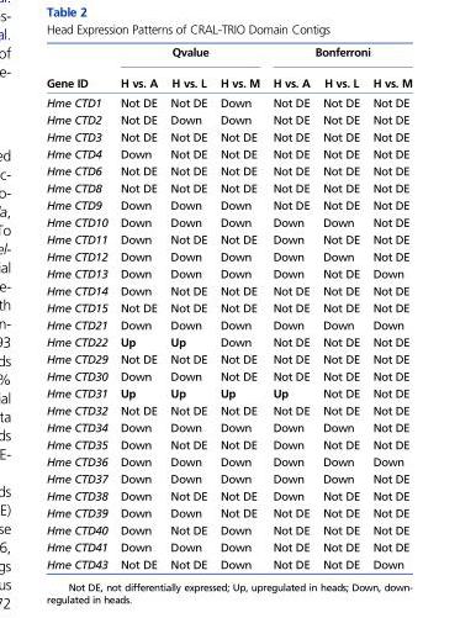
<table><thead><tr><td rowspan="2">Gene ID</td><td colspan="3">Qvalue</td><td colspan="3">Bonferroni</td></tr><tr><td>H vs. A</td><td>H vs. L</td><td>H vs. M</td><td>H vs. A</td><td>H vs. L</td><td>H vs. M</td></tr></thead><tbody><tr><td>Hme CTD1</td><td>Not DE</td><td>Not DE</td><td>Down</td><td>Not DE</td><td>Not DE</td><td>Not DE</td></tr><tr><td>Hme CTD2</td><td>Not DE</td><td>Down</td><td>Down</td><td>Not DE</td><td>Not DE</td><td>Not DE</td></tr><tr><td>Hme CTD3</td><td>Not DE</td><td>Not DE</td><td>Not DE</td><td>Not DE</td><td>Not DE</td><td>Not DE</td></tr><tr><td>Hme CTD4</td><td>Down</td><td>Not DE</td><td>Not DE</td><td>Not DE</td><td>Not DE</td><td>Not DE</td></tr><tr><td>Hme CTD6</td><td>Not DE</td><td>Not DE</td><td>Not DE</td><td>Not DE</td><td>Not DE</td><td>Not DE</td></tr><tr><td>Hme CTD8</td><td>Not DE</td><td>Not DE</td><td>Not DE</td><td>Not DE</td><td>Not DE</td><td>Not DE</td></tr><tr><td>Hme CTD9</td><td>Down</td><td>Down</td><td>Down</td><td>Not DE</td><td>Not DE</td><td>Not DE</td></tr><tr><td>Hme CTD10</td><td>Down</td><td>Down</td><td>Down</td><td>Down</td><td>Down</td><td>Not DE</td></tr><tr><td>Hme CTD11</td><td>Down</td><td>Not DE</td><td>Not DE</td><td>Down</td><td>Not DE</td><td>Not DE</td></tr><tr><td>Hme CTD12</td><td>Down</td><td>Down</td><td>Down</td><td>Down</td><td>Down</td><td>Not DE</td></tr><tr><td>Hme CTD13</td><td>Down</td><td>Down</td><td>Down</td><td>Down</td><td>Not DE</td><td>Down</td></tr><tr><td>Hme CTD14</td><td>Down</td><td>Not DE</td><td>Not DE</td><td>Not DE</td><td>Not DE</td><td>Not DE</td></tr><tr><td>Hme CTD15</td><td>Not DE</td><td>Not DE</td><td>Not DE</td><td>Not DE</td><td>Not DE</td><td>Not DE</td></tr><tr><td>Hme CTD21</td><td>Down</td><td>Down</td><td>Down</td><td>Down</td><td>Down</td><td>Down</td></tr><tr><td>Hme CTD22</td><td>Up</td><td>Up</td><td>Down</td><td>Not DE</td><td>Not DE</td><td>Not DE</td></tr><tr><td>Hme CTD29</td><td>Not DE</td><td>Not DE</td><td>Not DE</td><td>Not DE</td><td>Not DE</td><td>Not DE</td></tr><tr><td>Hme CTD30</td><td>Down</td><td>Down</td><td>Not DE</td><td>Not DE</td><td>Not DE</td><td>Not DE</td></tr><tr><td>Hme CTD31</td><td>Up</td><td>Up</td><td>Up</td><td>Up</td><td>Not DE</td><td>Not DE</td></tr><tr><td>Hme CTD32</td><td>Not DE</td><td>Not DE</td><td>Not DE</td><td>Not DE</td><td>Not DE</td><td>Not DE</td></tr><tr><td>Hme CTD34</td><td>Down</td><td>Down</td><td>Down</td><td>Down</td><td>Down</td><td>Not DE</td></tr><tr><td>Hme CTD35</td><td>Down</td><td>Not DE</td><td>Not DE</td><td>Down</td><td>Not DE</td><td>Not DE</td></tr><tr><td>Hme CTD36</td><td>Down</td><td>Down</td><td>Down</td><td>Down</td><td>Down</td><td>Down</td></tr><tr><td>Hme CTD37</td><td>Down</td><td>Down</td><td>Down</td><td>Down</td><td>Down</td><td>Not DE</td></tr><tr><td>Hme CTD38</td><td>Down</td><td>Not DE</td><td>Not DE</td><td>Down</td><td>Not DE</td><td>Not DE</td></tr><tr><td>Hme CTD39</td><td>Down</td><td>Down</td><td>Not DE</td><td>Not DE</td><td>Not DE</td><td>Not DE</td></tr><tr><td>Hme CTD40</td><td>Down</td><td>Not DE</td><td>Down</td><td>Not DE</td><td>Not DE</td><td>Not DE</td></tr><tr><td>Hme CTD41</td><td>Down</td><td>Down</td><td>Down</td><td>Not DE</td><td>Not DE</td><td>Not DE</td></tr><tr><td>Hme CTD43</td><td>Not DE</td><td>Not DE</td><td>Down</td><td>Not DE</td><td>Not DE</td><td>Down</td></tr></tbody></table>